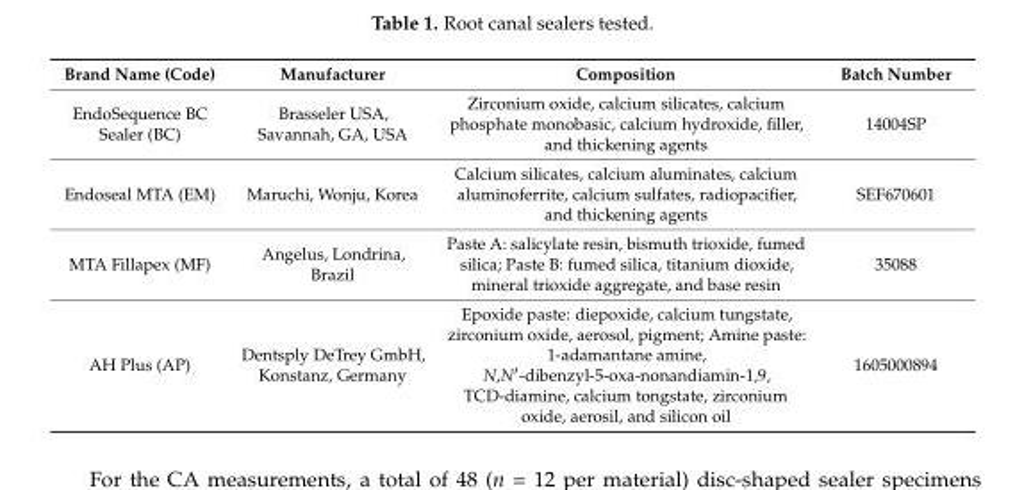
<table><thead><tr><td>Brand Name (Code)</td><td>Manufacturer</td><td>Composition</td><td>Batch Number</td></tr></thead><tbody><tr><td>EndoSequence BC Sealer (BC)</td><td>Brasseler USA, Savannah, GA, USA</td><td>Zirconium oxide, calcium silicates, calcium phosphate monobasic, calcium hydroxide, filler, and thickening agents</td><td>14004SP</td></tr><tr><td>Endoseal MTA (EM)</td><td>Maruchi, Wonju, Korea</td><td>Calcium silicates, calcium aluminates, calcium aluminoferrite, calcium sulfates, radiopacifier, and thickening agents</td><td>SEF670601</td></tr><tr><td>MTA Fillapex (MF)</td><td>Angelus, Londrina, Brazil</td><td>Paste A: salicylate resin, bismuth trioxide, fumed silica; Paste B: fumed silica, titanium dioxide, mineral trioxide aggregate, and base resin</td><td>35088</td></tr><tr><td>AH Plus (AP)</td><td>Dentsply DeTrey GmbH, Konstanz, Germany</td><td>Epoxide paste: diepoxide, calcium tungstate, zirconium oxide, aerosol, pigment; Amine paste: 1-adamantane amine, N,N′-dibenzyl-5-oxa-nonandiamin-1,9, TCD-diamine, calcium tongstate, zirconium oxide, aerosil, and silicon oil</td><td>1605000894</td></tr></tbody></table>